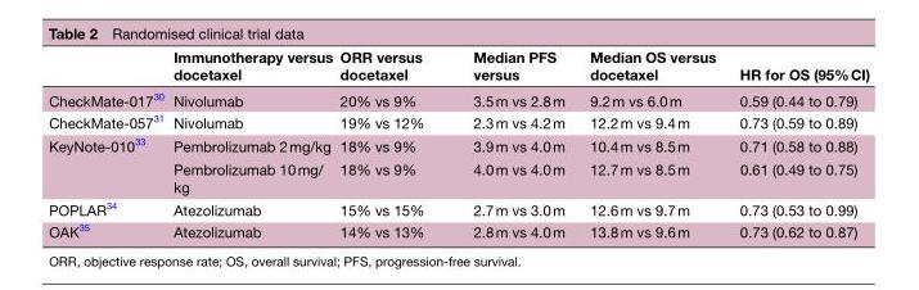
<table><thead><tr><td></td><td>Immunotherapy versus docetaxel</td><td>ORR versus docetaxel</td><td>Median PFS versus</td><td>Median OS versus docetaxel</td><td>HR for OS (95% CI)</td></tr></thead><tbody><tr><td>CheckMate-017<sup>30</sup></td><td>Nivolumab</td><td>20% vs 9%</td><td>3.5 m vs 2.8 m</td><td>9.2 m vs 6.0 m</td><td>0.59 (0.44 to 0.79)</td></tr><tr><td>CheckMate-057<sup>31</sup></td><td>Nivolumab</td><td>19% vs 12%</td><td>2.3 m vs 4.2 m</td><td>12.2 m vs 9.4 m</td><td>0.73 (0.59 to 0.89)</td></tr><tr><td rowspan="2">KeyNote-010<sup>33</sup></td><td>Pembrolizumab 2 mg/kg</td><td>18% vs 9%</td><td>3.9 m vs 4.0 m</td><td>10.4 m vs 8.5 m</td><td>0.71 (0.58 to 0.88)</td></tr><tr><td>Pembrolizumab 10 mg/ kg</td><td>18% vs 9%</td><td>4.0 m vs 4.0 m</td><td>12.7 m vs 8.5 m</td><td>0.61 (0.49 to 0.75)</td></tr><tr><td>POPLAR<sup>34</sup></td><td>Atezolizumab</td><td>15% vs 15%</td><td>2.7 m vs 3.0 m</td><td>12.6 m vs 9.7 m</td><td>0.73 (0.53 to 0.99)</td></tr><tr><td>OAK<sup>35</sup></td><td>Atezolizumab</td><td>14% vs 13%</td><td>2.8 m vs 4.0 m</td><td>13.8 m vs 9.6 m</td><td>0.73 (0.62 to 0.87)</td></tr></tbody></table>